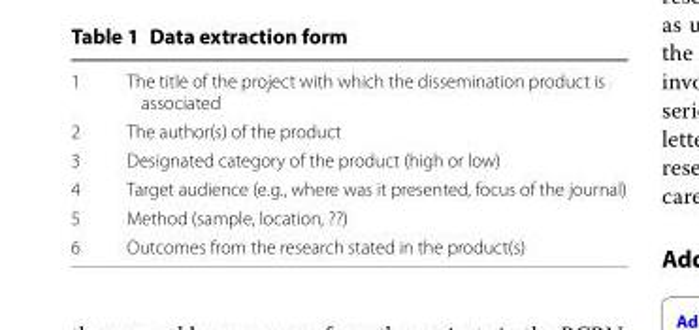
<table><tbody><tr><td>1</td><td>The title of the project with which the dissemination product is associated</td></tr><tr><td>2</td><td>The author(s) of the product</td></tr><tr><td>3</td><td>Designated category of the product (high or low)</td></tr><tr><td>4</td><td>Target audience (e.g., where was it presented, focus of the journal)</td></tr><tr><td>5</td><td>Method (sample, location, ??)</td></tr><tr><td>6</td><td>Outcomes from the research stated in the product(s)</td></tr></tbody></table>